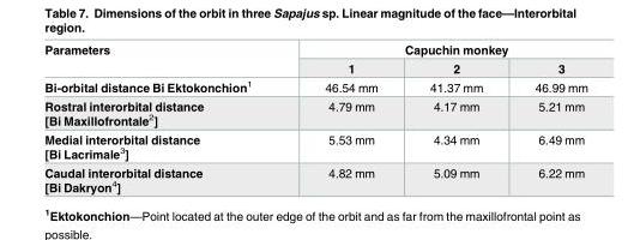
<table><thead><tr><td rowspan="2">Parameters</td><td colspan="3">Capuchin monkey</td></tr><tr><td>1</td><td>2</td><td>3</td></tr></thead><tbody><tr><td>Bi-orbital distance Bi Ektokonchion<sup>1</sup></td><td>46.54 mm</td><td>41.37 mm</td><td>46.99 mm</td></tr><tr><td>Rostral interorbital distance [Bi Maxillofrontale<sup>2</sup>]</td><td>4.79 mm</td><td>4.17 mm</td><td>5.21 mm</td></tr><tr><td>Medial interorbital distance [Bi Lacrimale<sup>3</sup>]</td><td>5.53 mm</td><td>4.34 mm</td><td>6.49 mm</td></tr><tr><td>Caudal interorbital distance [Bi Dakryon<sup>4</sup>]</td><td>4.82 mm</td><td>5.09 mm</td><td>6.22 mm</td></tr></tbody></table>